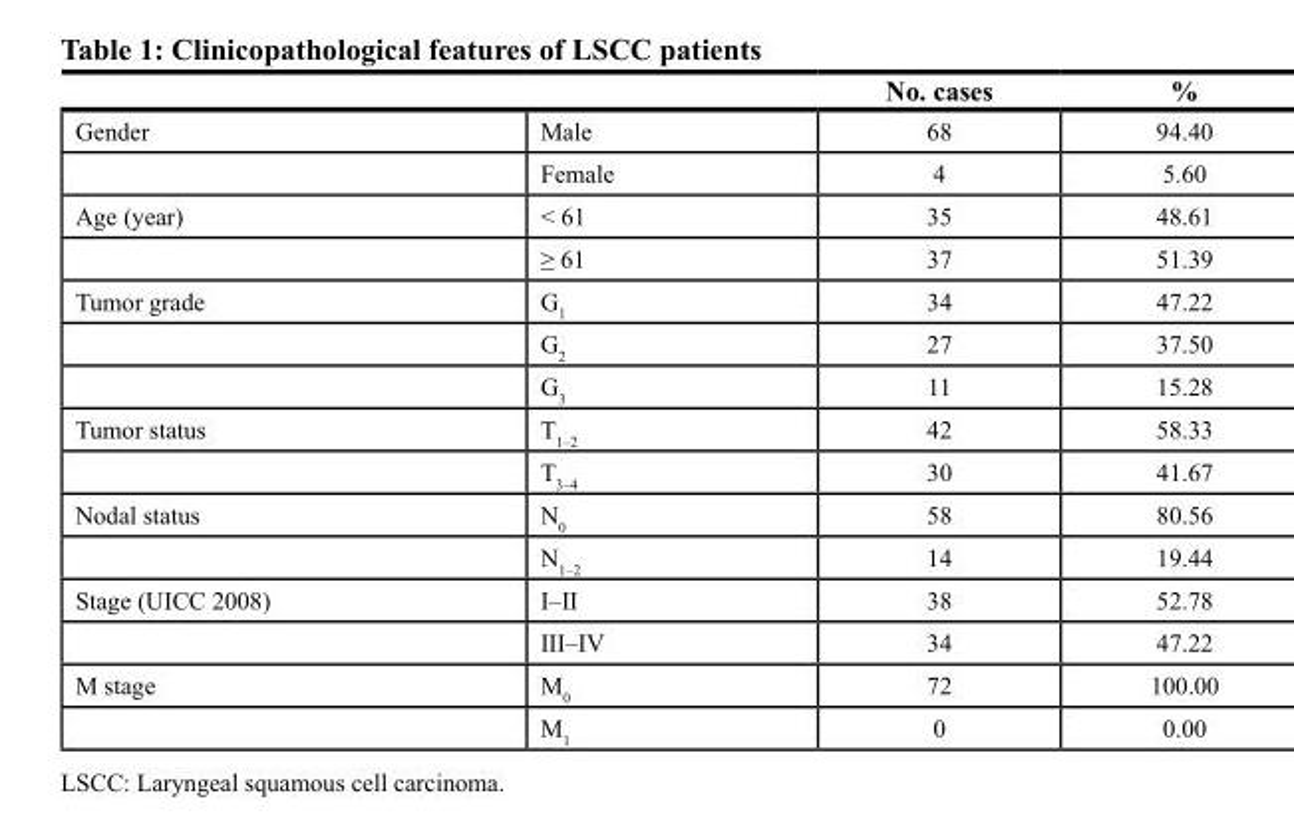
<table><thead><tr><td></td><td></td><td>No. cases</td><td>%</td></tr></thead><tbody><tr><td rowspan="2">Gender</td><td>Male</td><td>68</td><td>94.40</td></tr><tr><td>Female</td><td>4</td><td>5.60</td></tr><tr><td rowspan="2">Age (year)</td><td>&lt; 61</td><td>35</td><td>48.61</td></tr><tr><td>≥ 61</td><td>37</td><td>51.39</td></tr><tr><td rowspan="3">Tumor grade</td><td>G<sub>1</sub></td><td>34</td><td>47.22</td></tr><tr><td>G<sub>2</sub></td><td>27</td><td>37.50</td></tr><tr><td>G<sub>3</sub></td><td>11</td><td>15.28</td></tr><tr><td rowspan="2">Tumor status</td><td>T<sub>1–2</sub></td><td>42</td><td>58.33</td></tr><tr><td>T<sub>3–4</sub></td><td>30</td><td>41.67</td></tr><tr><td rowspan="2">Nodal status</td><td>N<sub>0</sub></td><td>58</td><td>80.56</td></tr><tr><td>N<sub>1–2</sub></td><td>14</td><td>19.44</td></tr><tr><td rowspan="2">Stage (UICC 2008)</td><td>I–II</td><td>38</td><td>52.78</td></tr><tr><td>III–IV</td><td>34</td><td>47.22</td></tr><tr><td rowspan="2">M stage</td><td>M<sub>0</sub></td><td>72</td><td>100.00</td></tr><tr><td>M<sub>1</sub></td><td>0</td><td>0.00</td></tr></tbody></table>